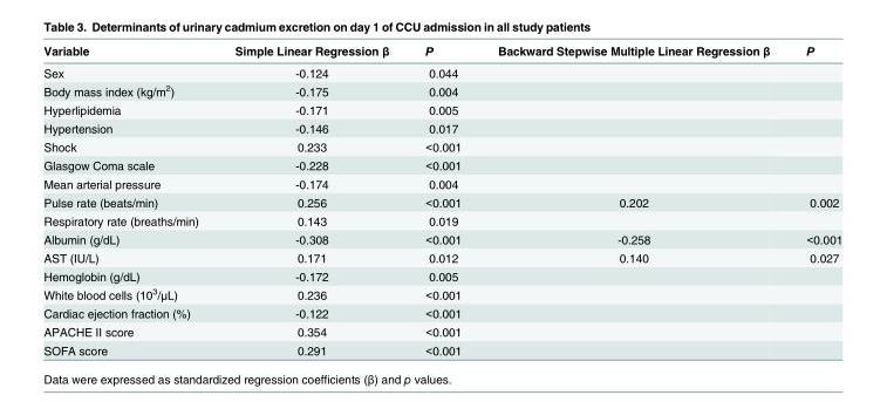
<table><thead><tr><td>Variable</td><td>Simple Linear Regression β</td><td>P</td><td>Backward Stepwise Multiple Linear Regression β</td><td>P</td></tr></thead><tbody><tr><td>Sex</td><td>-0.124</td><td>0.044</td><td></td><td></td></tr><tr><td>Body mass index (kg/m<sup>2</sup>)</td><td>-0.175</td><td>0.004</td><td></td><td></td></tr><tr><td>Hyperlipidemia</td><td>-0.171</td><td>0.005</td><td></td><td></td></tr><tr><td>Hypertension</td><td>-0.146</td><td>0.017</td><td></td><td></td></tr><tr><td>Shock</td><td>0.233</td><td>&lt;0.001</td><td></td><td></td></tr><tr><td>Glasgow Coma scale</td><td>-0.228</td><td>&lt;0.001</td><td></td><td></td></tr><tr><td>Mean arterial pressure</td><td>-0.174</td><td>0.004</td><td></td><td></td></tr><tr><td>Pulse rate (beats/min)</td><td>0.256</td><td>&lt;0.001</td><td>0.202</td><td>0.002</td></tr><tr><td>Respiratory rate (breaths/min)</td><td>0.143</td><td>0.019</td><td></td><td></td></tr><tr><td>Albumin (g/dL)</td><td>-0.308</td><td>&lt;0.001</td><td>-0.258</td><td>&lt;0.001</td></tr><tr><td>AST (IU/L)</td><td>0.171</td><td>0.012</td><td>0.140</td><td>0.027</td></tr><tr><td>Hemoglobin (g/dL)</td><td>-0.172</td><td>0.005</td><td></td><td></td></tr><tr><td>White blood cells (10<sup>3</sup>/μL)</td><td>0.236</td><td>&lt;0.001</td><td></td><td></td></tr><tr><td>Cardiac ejection fraction (%)</td><td>-0.122</td><td>&lt;0.001</td><td></td><td></td></tr><tr><td>APACHE II score</td><td>0.354</td><td>&lt;0.001</td><td></td><td></td></tr><tr><td>SOFA score</td><td>0.291</td><td>&lt;0.001</td><td></td><td></td></tr></tbody></table>